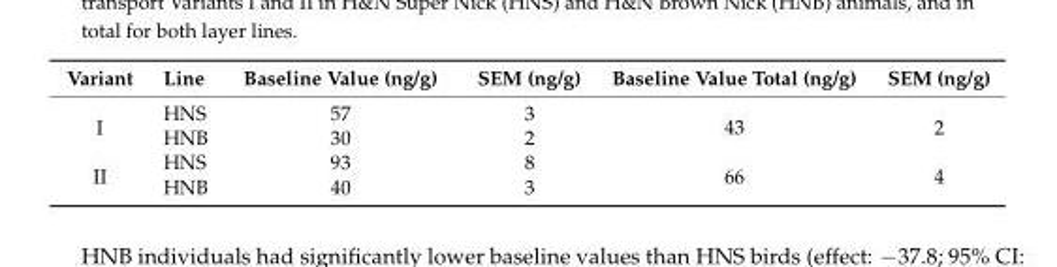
<table><thead><tr><td>Variant</td><td>Line</td><td>Baseline Value (ng/g)</td><td>SEM (ng/g)</td><td>Baseline Value Total (ng/g)</td><td>SEM (ng/g)</td></tr></thead><tbody><tr><td rowspan="2">I</td><td>HNS</td><td>57</td><td>3</td><td rowspan="2">43</td><td rowspan="2">2</td></tr><tr><td>HNB</td><td>30</td><td>2</td></tr><tr><td rowspan="2">II</td><td>HNS</td><td>93</td><td>8</td><td rowspan="2">66</td><td rowspan="2">4</td></tr><tr><td>HNB</td><td>40</td><td>3</td></tr></tbody></table>